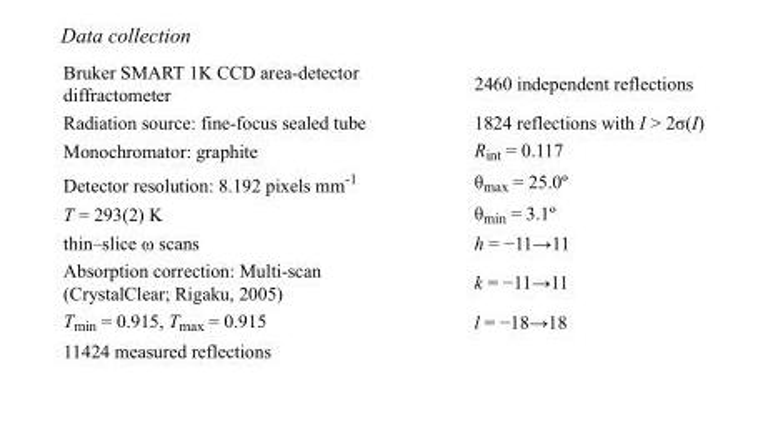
<table><tbody><tr><td>Bruker SMART 1K CCD area-detector diffractometer</td><td>2460 independent reflections</td></tr><tr><td>Radiation source: fine-focus sealed tube</td><td>1824 reflections with I &gt; 2σ(I)</td></tr><tr><td>Monochromator: graphite</td><td>R<sub>int</sub> = 0.117</td></tr><tr><td>Detector resolution: 8.192 pixels mm<sup>-1</sup></td><td>θ<sub>max</sub> = 25.0º</td></tr><tr><td>T = 293(2) K</td><td>θ<sub>min</sub> = 3.1º</td></tr><tr><td>thin–slice ω scans</td><td>h = −11→11</td></tr><tr><td>Absorption correction: Multi-scan (CrystalClear; Rigaku, 2005)</td><td>k = −11→11</td></tr><tr><td>T<sub>min</sub> = 0.915, T<sub>max</sub> = 0.915</td><td>l = −18→18</td></tr><tr><td>11424 measured reflections</td><td></td></tr></tbody></table>